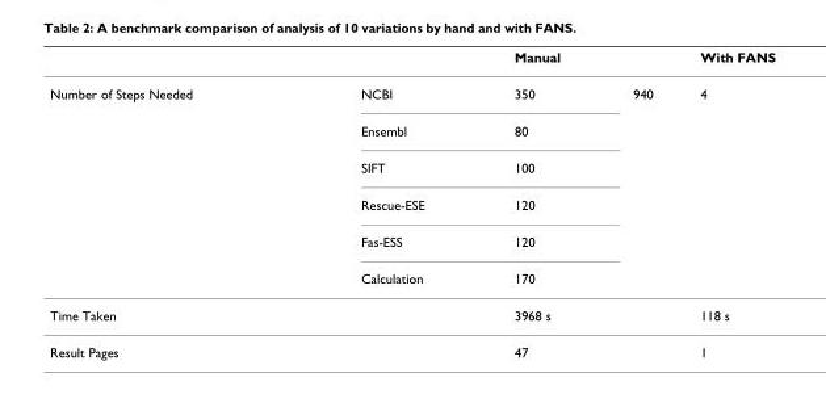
<table><thead><tr><td></td><td></td><td>Manual</td><td></td><td>With FANS</td></tr></thead><tbody><tr><td rowspan="6">Number of Steps Needed</td><td>NCBI</td><td>350</td><td>940</td><td>4</td></tr><tr><td>Ensembl</td><td>80</td><td></td><td></td></tr><tr><td>SIFT</td><td>100</td><td></td><td></td></tr><tr><td>Rescue-ESE</td><td>120</td><td></td><td></td></tr><tr><td>Fas-ESS</td><td>120</td><td></td><td></td></tr><tr><td>Calculation</td><td>170</td><td></td><td></td></tr><tr><td colspan="2">Time Taken</td><td>3968 s</td><td></td><td>118 s</td></tr><tr><td colspan="2">Result Pages</td><td>47</td><td></td><td>1</td></tr></tbody></table>